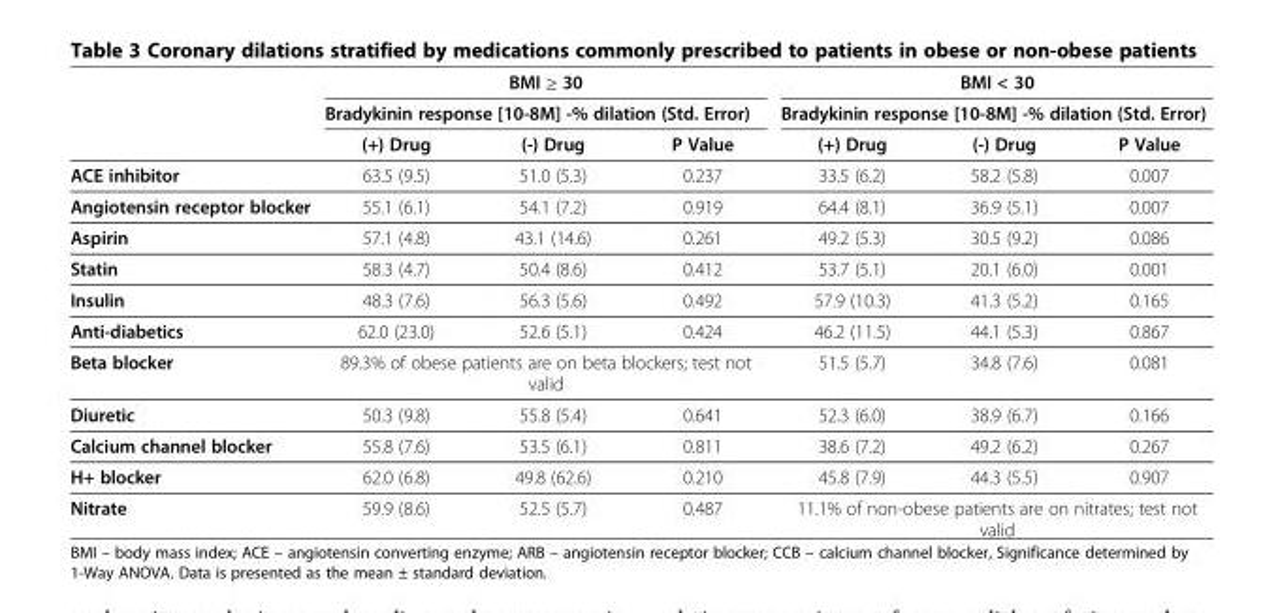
<table><thead><tr><td rowspan="3"></td><td rowspan="2" colspan="3">BMI ≥ 30 Bradykinin response [10-8M] -% dilation (Std. Error)</td><td rowspan="2" colspan="3">BMI &lt; 30 Bradykinin response [10-8M] -% dilation (Std. Error)</td></tr><tr></tr><tr><td>(+) Drug</td><td>(-) Drug</td><td>P Value</td><td>(+) Drug</td><td>(-) Drug</td><td>P Value</td></tr></thead><tbody><tr><td>ACE inhibitor</td><td>63.5 (9.5)</td><td>51.0 (5.3)</td><td>0.237</td><td>33.5 (6.2)</td><td>58.2 (5.8)</td><td>0.007</td></tr><tr><td>Angiotensin receptor blocker</td><td>55.1 (6.1)</td><td>54.1 (7.2)</td><td>0.919</td><td>64.4 (8.1)</td><td>36.9 (5.1)</td><td>0.007</td></tr><tr><td>Aspirin</td><td>57.1 (4.8)</td><td>43.1 (14.6)</td><td>0.261</td><td>49.2 (5.3)</td><td>30.5 (9.2)</td><td>0.086</td></tr><tr><td>Statin</td><td>58.3 (4.7)</td><td>50.4 (8.6)</td><td>0.412</td><td>53.7 (5.1)</td><td>20.1 (6.0)</td><td>0.001</td></tr><tr><td>Insulin</td><td>48.3 (7.6)</td><td>56.3 (5.6)</td><td>0.492</td><td>57.9 (10.3)</td><td>41.3 (5.2)</td><td>0.165</td></tr><tr><td>Anti-diabetics</td><td>62.0 (23.0)</td><td>52.6 (5.1)</td><td>0.424</td><td>46.2 (11.5)</td><td>44.1 (5.3)</td><td>0.867</td></tr><tr><td>Beta blocker</td><td colspan="3">89.3% of obese patients are on beta blockers; test not valid</td><td>51.5 (5.7)</td><td>34.8 (7.6)</td><td>0.081</td></tr><tr><td>Diuretic</td><td>50.3 (9.8)</td><td>55.8 (5.4)</td><td>0.641</td><td>52.3 (6.0)</td><td>38.9 (6.7)</td><td>0.166</td></tr><tr><td>Calcium channel blocker</td><td>55.8 (7.6)</td><td>53.5 (6.1)</td><td>0.811</td><td>38.6 (7.2)</td><td>49.2 (6.2)</td><td>0.267</td></tr><tr><td>H+ blocker</td><td>62.0 (6.8)</td><td>49.8 (62.6)</td><td>0.210</td><td>45.8 (7.9)</td><td>44.3 (5.5)</td><td>0.907</td></tr><tr><td>Nitrate</td><td>59.9 (8.6)</td><td>52.5 (5.7)</td><td>0.487</td><td colspan="3">11.1% of non-obese patients are on nitrates; test not valid</td></tr></tbody></table>